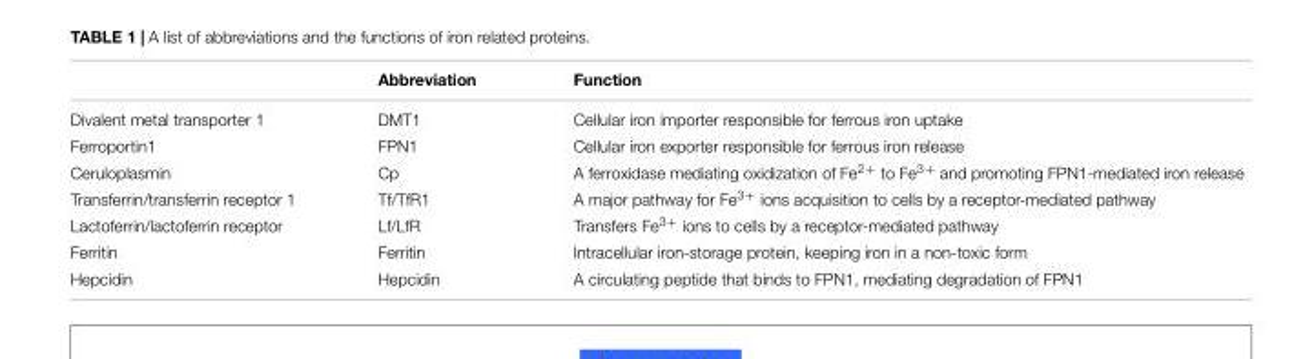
<table><thead><tr><td></td><td>Abbreviation</td><td>Function</td></tr></thead><tbody><tr><td>Divalent metal transporter 1</td><td>DMT1</td><td>Cellular iron importer responsible for ferrous iron uptake</td></tr><tr><td>Ferroportin1</td><td>FPN1</td><td>Cellular iron exporter responsible for ferrous iron release</td></tr><tr><td>Ceruloplasmin</td><td>Cp</td><td>A ferroxidase mediating oxidization of Fe<sup>2+</sup> to Fe<sup>3+</sup> and promoting FPN1-mediated iron release</td></tr><tr><td>Transferrin/transferrin receptor 1</td><td>Tf/TfR1</td><td>A major pathway for Fe<sup>3+</sup> ions acquisition to cells by a receptor-mediated pathway</td></tr><tr><td>Lactoferrin/lactoferrin receptor</td><td>Lf/LfR</td><td>Transfers Fe<sup>3+</sup> ions to cells by a receptor-mediated pathway</td></tr><tr><td>Ferritin</td><td>Ferritin</td><td>Intracellular iron-storage protein, keeping iron in a non-toxic form</td></tr><tr><td>Hepcidin</td><td>Hepcidin</td><td>A circulating peptide that binds to FPN1, mediating degradation of FPN1</td></tr></tbody></table>